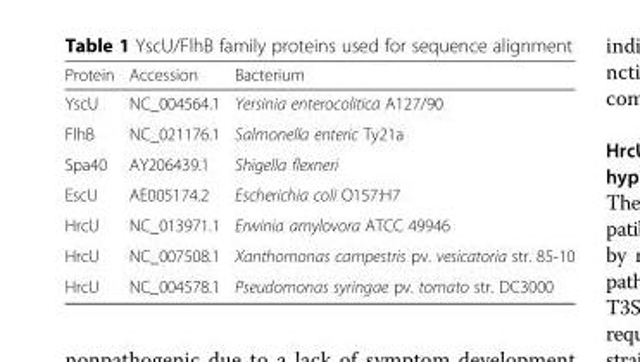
<table><thead><tr><td>Protein</td><td>Accession</td><td>Bacterium</td></tr></thead><tbody><tr><td>YscU</td><td>NC_004564.1</td><td>Yersinia enterocolitica A127/90</td></tr><tr><td>FlhB</td><td>NC_021176.1</td><td>Salmonella enteric Ty21a</td></tr><tr><td>Spa40</td><td>AY206439.1</td><td>Shigella flexneri</td></tr><tr><td>EscU</td><td>AE005174.2</td><td>Escherichia coli O157:H7</td></tr><tr><td>HrcU</td><td>NC_013971.1</td><td>Erwinia amylovora ATCC 49946</td></tr><tr><td>HrcU</td><td>NC_007508.1</td><td>Xanthomonas campestris pv. vesicatoria str. 85-10</td></tr><tr><td>HrcU</td><td>NC_004578.1</td><td>Pseudomonas syringae pv. tomato str. DC3000</td></tr></tbody></table>